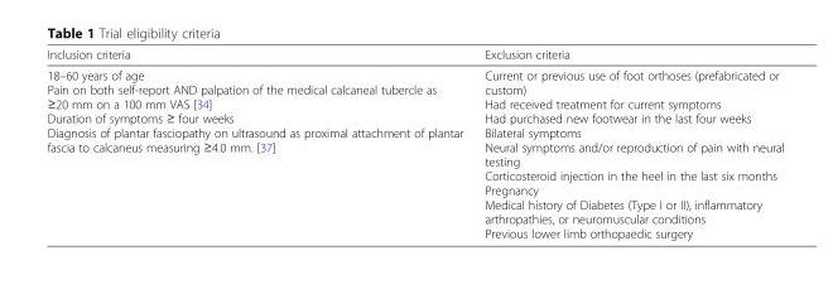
<table><thead><tr><td>Inclusion criteria</td><td>Exclusion criteria</td></tr></thead><tbody><tr><td>18–60 years of age Pain on both self-report AND palpation of the medical calcaneal tubercle as ≥20 mm on a 100 mm VAS [34] Duration of symptoms ≥ four weeks Diagnosis of plantar fasciopathy on ultrasound as proximal attachment of plantar fascia to calcaneus measuring ≥4.0 mm. [37]</td><td>Current or previous use of foot orthoses (prefabricated or custom) Had received treatment for current symptoms Had purchased new footwear in the last four weeks Bilateral symptoms Neural symptoms and/or reproduction of pain with neural testing Corticosteroid injection in the heel in the last six months Pregnancy Medical history of Diabetes (Type I or II), inflammatory arthropathies, or neuromuscular conditions Previous lower limb orthopaedic surgery</td></tr></tbody></table>